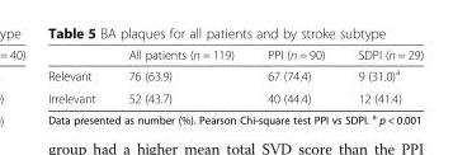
<table><thead><tr><td></td><td>All patients (n = 119)</td><td>PPI (n = 90)</td><td>SDPI (n = 29)</td></tr></thead><tbody><tr><td>Relevant</td><td>76 (63.9)</td><td>67 (74.4)</td><td>9 (31.0)<sup>a</sup></td></tr><tr><td>Irrelevant</td><td>52 (43.7)</td><td>40 (44.4)</td><td>12 (41.4)</td></tr></tbody></table>